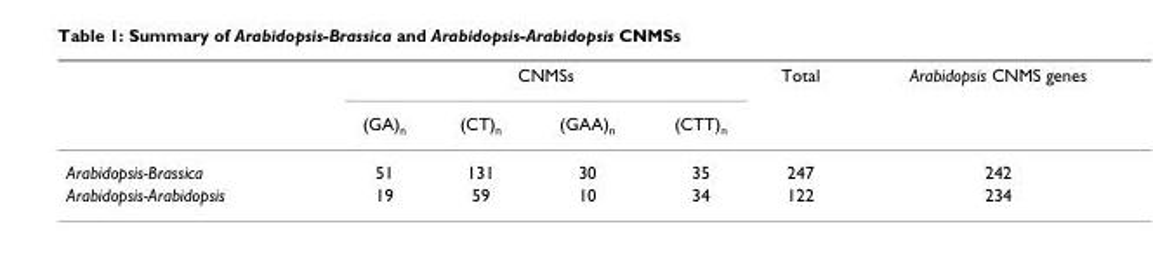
<table><thead><tr><td rowspan="2"></td><td colspan="4">CNMSs</td><td rowspan="2">Total</td><td rowspan="2">Arabidopsis CNMS genes</td></tr><tr><td>(GA)n</td><td>(CT)n</td><td>(GAA)n</td><td>(CTT)n</td></tr></thead><tbody><tr><td>Arabidopsis-Brassica</td><td>51</td><td>131</td><td>30</td><td>35</td><td>247</td><td>242</td></tr><tr><td>Arabidopsis-Arabidopsis</td><td>19</td><td>59</td><td>10</td><td>34</td><td>122</td><td>234</td></tr></tbody></table>